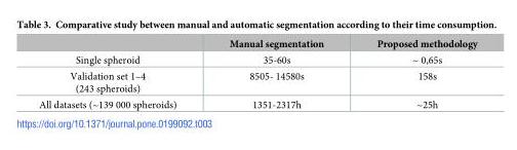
<table><thead><tr><td></td><td>Manual segmentation</td><td>Proposed methodology</td></tr></thead><tbody><tr><td>Single spheroid</td><td>35-60s</td><td>~ 0,65s</td></tr><tr><td>Validation set 1–4 (243 spheroids)</td><td>8505- 14580s</td><td>158s</td></tr><tr><td>All datasets (~139 000 spheroids)</td><td>1351-2317h</td><td>~25h</td></tr></tbody></table>